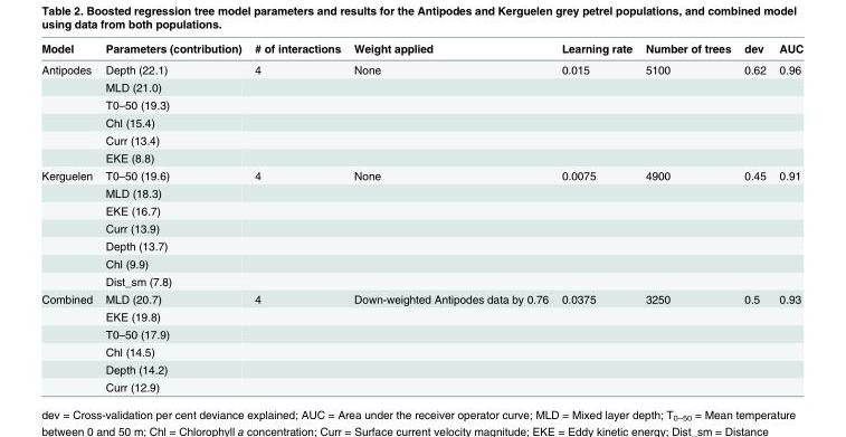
<table><thead><tr><td>Model</td><td>Parameters (contribution)</td><td># of interactions</td><td>Weight applied</td><td>Learning rate</td><td>Number of trees</td><td>dev</td><td>AUC</td></tr></thead><tbody><tr><td rowspan="6">Antipodes</td><td>Depth (22.1)</td><td>4</td><td>None</td><td>0.015</td><td>5100</td><td>0.62</td><td>0.96</td></tr><tr><td>MLD (21.0)</td><td></td><td></td><td></td><td></td><td></td><td></td></tr><tr><td>T0–50 (19.3)</td><td></td><td></td><td></td><td></td><td></td><td></td></tr><tr><td>Chl (15.4)</td><td></td><td></td><td></td><td></td><td></td><td></td></tr><tr><td>Curr (13.4)</td><td></td><td></td><td></td><td></td><td></td><td></td></tr><tr><td>EKE (8.8)</td><td></td><td></td><td></td><td></td><td></td><td></td></tr><tr><td rowspan="7">Kerguelen</td><td>T0–50 (19.6)</td><td>4</td><td>None</td><td>0.0075</td><td>4900</td><td>0.45</td><td>0.91</td></tr><tr><td>MLD (18.3)</td><td></td><td></td><td></td><td></td><td></td><td></td></tr><tr><td>EKE (16.7)</td><td></td><td></td><td></td><td></td><td></td><td></td></tr><tr><td>Curr (13.9)</td><td></td><td></td><td></td><td></td><td></td><td></td></tr><tr><td>Depth (13.7)</td><td></td><td></td><td></td><td></td><td></td><td></td></tr><tr><td>Chl (9.9)</td><td></td><td></td><td></td><td></td><td></td><td></td></tr><tr><td>Dist_sm (7.8)</td><td></td><td></td><td></td><td></td><td></td><td></td></tr><tr><td rowspan="6">Combined</td><td>MLD (20.7)</td><td>4</td><td>Down-weighted Antipodes data by 0.76</td><td>0.0375</td><td>3250</td><td>0.5</td><td>0.93</td></tr><tr><td>EKE (19.8)</td><td></td><td></td><td></td><td></td><td></td><td></td></tr><tr><td>T0–50 (17.9)</td><td></td><td></td><td></td><td></td><td></td><td></td></tr><tr><td>Chl (14.5)</td><td></td><td></td><td></td><td></td><td></td><td></td></tr><tr><td>Depth (14.2)</td><td></td><td></td><td></td><td></td><td></td><td></td></tr><tr><td>Curr (12.9)</td><td></td><td></td><td></td><td></td><td></td><td></td></tr></tbody></table>